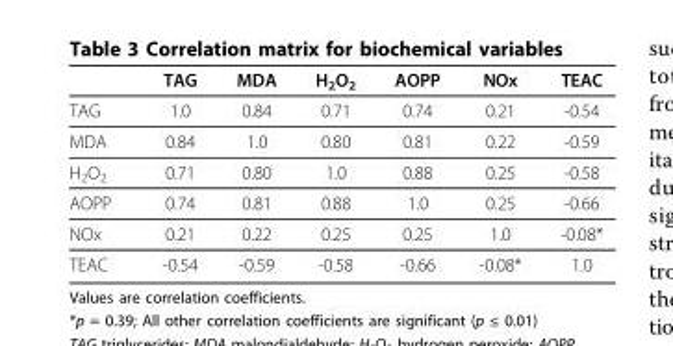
<table><thead><tr><td></td><td>TAG</td><td>MDA</td><td>H<sub>2</sub>O<sub>2</sub></td><td>AOPP</td><td>NOx</td><td>TEAC</td></tr></thead><tbody><tr><td>TAG</td><td>1.0</td><td>0.84</td><td>0.71</td><td>0.74</td><td>0.21</td><td>-0.54</td></tr><tr><td>MDA</td><td>0.84</td><td>1.0</td><td>0.80</td><td>0.81</td><td>0.22</td><td>-0.59</td></tr><tr><td>H<sub>2</sub>O<sub>2</sub></td><td>0.71</td><td>0.80</td><td>1.0</td><td>0.88</td><td>0.25</td><td>-0.58</td></tr><tr><td>AOPP</td><td>0.74</td><td>0.81</td><td>0.88</td><td>1.0</td><td>0.25</td><td>-0.66</td></tr><tr><td>NOx</td><td>0.21</td><td>0.22</td><td>0.25</td><td>0.25</td><td>1.0</td><td>-0.08*</td></tr><tr><td>TEAC</td><td>-0.54</td><td>-0.59</td><td>-0.58</td><td>-0.66</td><td>-0.08*</td><td>1.0</td></tr></tbody></table>